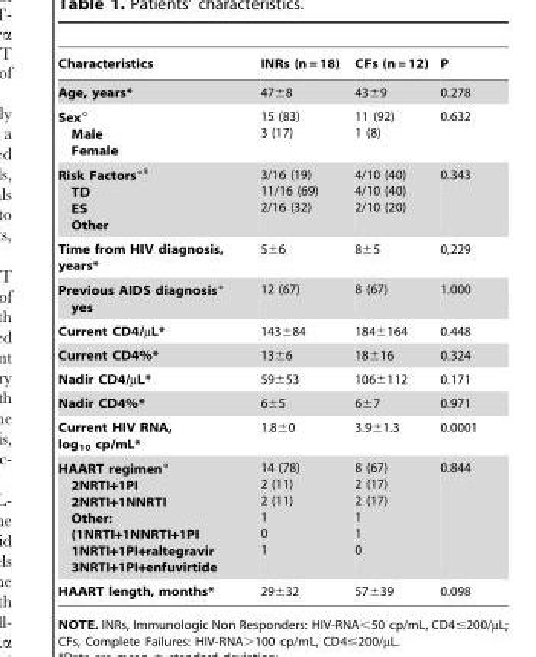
<table><thead><tr><td>Characteristics</td><td>INRs (n = 18)</td><td>CFs (n = 12)</td><td>P</td></tr></thead><tbody><tr><td>Age, years*</td><td>47±8</td><td>43±9</td><td>0.278</td></tr><tr><td>Sex° Male Female</td><td>15 (83) 3 (17)</td><td>11 (92) 1 (8)</td><td>0.632</td></tr><tr><td>Risk Factors°§ TD ES Other</td><td>3/16 (19) 11/16 (69) 2/16 (32)</td><td>4/10 (40) 4/10 (40) 2/10 (20)</td><td>0.343</td></tr><tr><td>Time from HIV diagnosis, years*</td><td>5±6</td><td>8±5</td><td>0,229</td></tr><tr><td>Previous AIDS diagnosis° yes</td><td>12 (67)</td><td>8 (67)</td><td>1.000</td></tr><tr><td>Current CD4/µL*</td><td>143±84</td><td>184±164</td><td>0.448</td></tr><tr><td>Current CD4%*</td><td>13±6</td><td>18±16</td><td>0.324</td></tr><tr><td>Nadir CD4/µL*</td><td>59±53</td><td>106±112</td><td>0.171</td></tr><tr><td>Nadir CD4%*</td><td>6±5</td><td>6±7</td><td>0.971</td></tr><tr><td>Current HIV RNA, log<sub>10</sub> cp/mL*</td><td>1.8±0</td><td>3.9±1.3</td><td>0.0001</td></tr><tr><td>HAART regimen° 2NRTI+1PI 2NRTI+1NNRTI Other: (1NRTI+1NNRTI+1PI 1NRTI+1PI+raltegravir 3NRTI+1PI+enfuvirtide</td><td>14 (78) 2 (11) 2 (11) 1 0 1</td><td>8 (67) 2 (17) 2 (17) 1 1 0</td><td>0.844</td></tr><tr><td>HAART length, months*</td><td>29±32</td><td>57±39</td><td>0.098</td></tr></tbody></table>